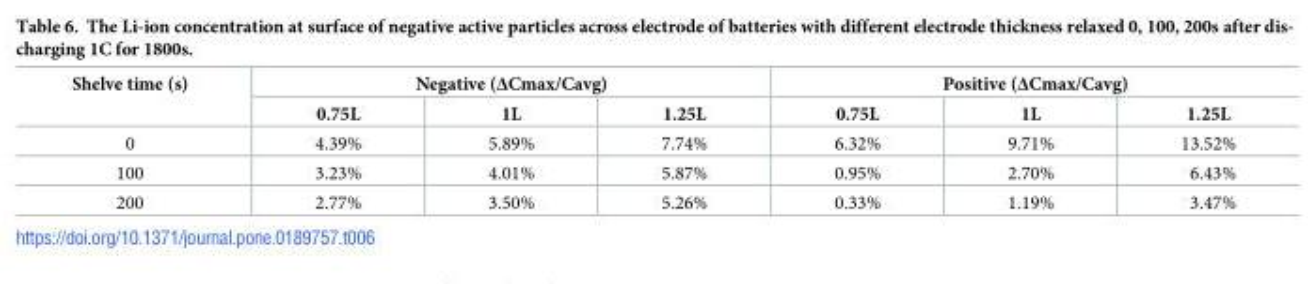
<table><thead><tr><td rowspan="2">Shelve time (s)</td><td colspan="3">Negative (ΔCmax/Cavg)</td><td colspan="3">Positive (ΔCmax/Cavg)</td></tr><tr><td>0.75L</td><td>1L</td><td>1.25L</td><td>0.75L</td><td>1L</td><td>1.25L</td></tr></thead><tbody><tr><td>0</td><td>4.39%</td><td>5.89%</td><td>7.74%</td><td>6.32%</td><td>9.71%</td><td>13.52%</td></tr><tr><td>100</td><td>3.23%</td><td>4.01%</td><td>5.87%</td><td>0.95%</td><td>2.70%</td><td>6.43%</td></tr><tr><td>200</td><td>2.77%</td><td>3.50%</td><td>5.26%</td><td>0.33%</td><td>1.19%</td><td>3.47%</td></tr></tbody></table>